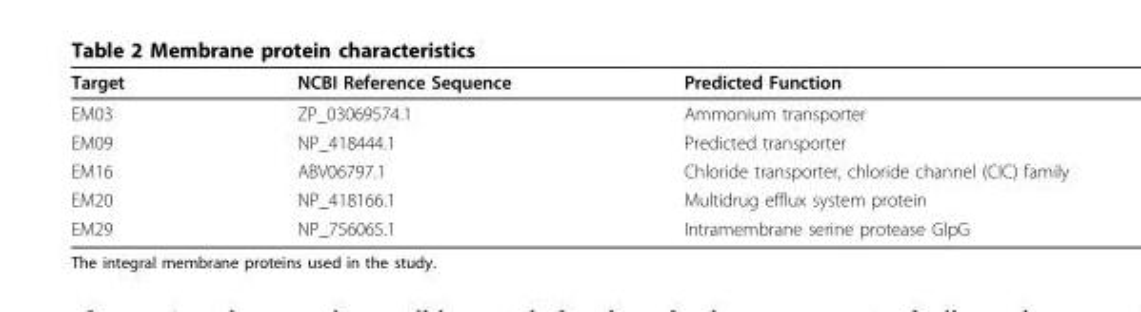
<table><thead><tr><td>Target</td><td>NCBI Reference Sequence</td><td>Predicted Function</td></tr></thead><tbody><tr><td>EM03</td><td>ZP_03069574.1</td><td>Ammonium transporter</td></tr><tr><td>EM09</td><td>NP_418444.1</td><td>Predicted transporter</td></tr><tr><td>EM16</td><td>ABV06797.1</td><td>Chloride transporter, chloride channel (CIC) family</td></tr><tr><td>EM20</td><td>NP_418166.1</td><td>Multidrug efflux system protein</td></tr><tr><td>EM29</td><td>NP_756065.1</td><td>Intramembrane serine protease GlpG</td></tr></tbody></table>